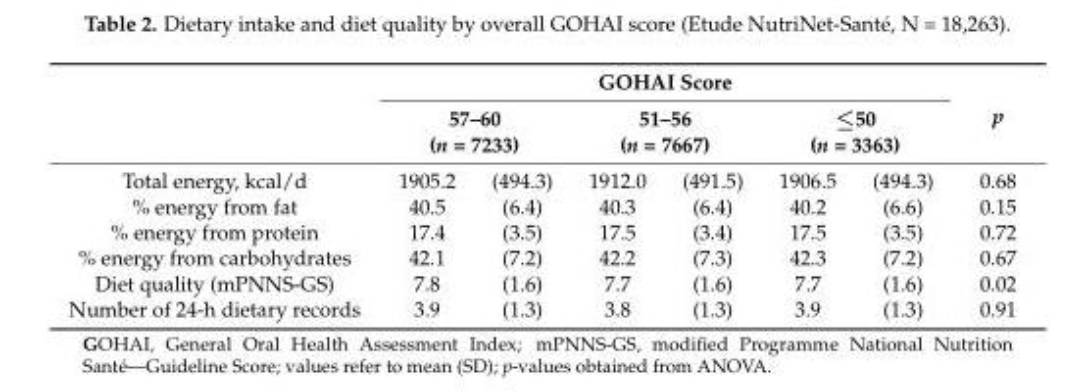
<table><thead><tr><td rowspan="3">Total energy, kcal/d</td><td colspan="6">GOHAI Score</td><td rowspan="3">p 0.68</td></tr><tr><td colspan="2">57–60 (n = 7233)</td><td colspan="2">51–56 (n = 7667)</td><td colspan="2">≤50 (n = 3363)</td></tr><tr><td>1905.2</td><td>(494.3)</td><td>1912.0</td><td>(491.5)</td><td>1906.5</td><td>(494.3)</td></tr></thead><tbody><tr><td>% energy from fat</td><td>40.5</td><td>(6.4)</td><td>40.3</td><td>(6.4)</td><td>40.2</td><td>(6.6)</td><td>0.15</td></tr><tr><td>% energy from protein</td><td>17.4</td><td>(3.5)</td><td>17.5</td><td>(3.4)</td><td>17.5</td><td>(3.5)</td><td>0.72</td></tr><tr><td>% energy from carbohydrates</td><td>42.1</td><td>(7.2)</td><td>42.2</td><td>(7.3)</td><td>42.3</td><td>(7.2)</td><td>0.67</td></tr><tr><td>Diet quality (mPNNS-GS)</td><td>7.8</td><td>(1.6)</td><td>7.7</td><td>(1.6)</td><td>7.7</td><td>(1.6)</td><td>0.02</td></tr><tr><td>Number of 24-h dietary records</td><td>3.9</td><td>(1.3)</td><td>3.8</td><td>(1.3)</td><td>3.9</td><td>(1.3)</td><td>0.91</td></tr></tbody></table>